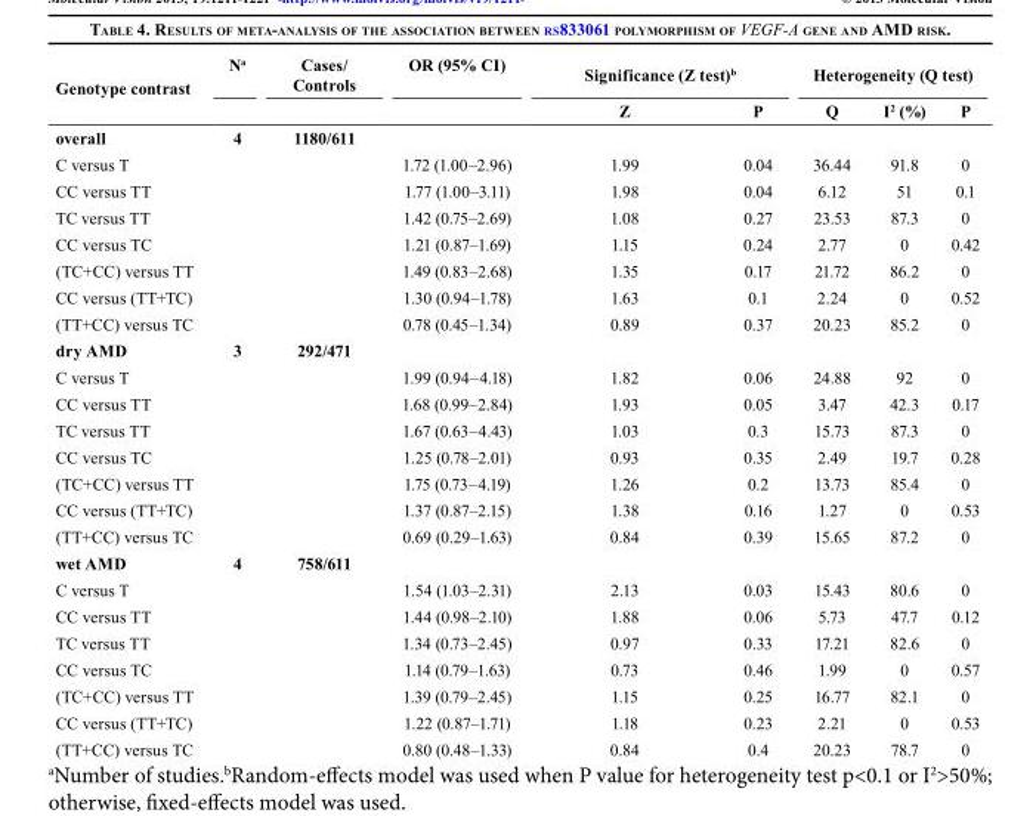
<table><thead><tr><td rowspan="2">Genotype contrast</td><td rowspan="2">N<sup>a</sup></td><td rowspan="2">Cases/ Controls</td><td rowspan="2">OR (95% CI)</td><td colspan="2">Significance (Z test)<sup>b</sup></td><td colspan="3">Heterogeneity (Q test)</td></tr><tr><td>Z</td><td>P</td><td>Q</td><td>I<sup>2</sup> (%)</td><td>P</td></tr></thead><tbody><tr><td>overall</td><td>4</td><td>1180/611</td><td></td><td></td><td></td><td></td><td></td><td></td></tr><tr><td>C versus T</td><td></td><td></td><td>1.72 (1.00–2.96)</td><td>1.99</td><td>0.04</td><td>36.44</td><td>91.8</td><td>0</td></tr><tr><td>CC versus TT</td><td></td><td></td><td>1.77 (1.00–3.11)</td><td>1.98</td><td>0.04</td><td>6.12</td><td>51</td><td>0.1</td></tr><tr><td>TC versus TT</td><td></td><td></td><td>1.42 (0.75–2.69)</td><td>1.08</td><td>0.27</td><td>23.53</td><td>87.3</td><td>0</td></tr><tr><td>CC versus TC</td><td></td><td></td><td>1.21 (0.87–1.69)</td><td>1.15</td><td>0.24</td><td>2.77</td><td>0</td><td>0.42</td></tr><tr><td>(TC+CC) versus TT</td><td></td><td></td><td>1.49 (0.83–2.68)</td><td>1.35</td><td>0.17</td><td>21.72</td><td>86.2</td><td>0</td></tr><tr><td>CC versus (TT+TC)</td><td></td><td></td><td>1.30 (0.94–1.78)</td><td>1.63</td><td>0.1</td><td>2.24</td><td>0</td><td>0.52</td></tr><tr><td>(TT+CC) versus TC</td><td></td><td></td><td>0.78 (0.45–1.34)</td><td>0.89</td><td>0.37</td><td>20.23</td><td>85.2</td><td>0</td></tr><tr><td>dry AMD</td><td>3</td><td>292/471</td><td></td><td></td><td></td><td></td><td></td><td></td></tr><tr><td>C versus T</td><td></td><td></td><td>1.99 (0.94–4.18)</td><td>1.82</td><td>0.06</td><td>24.88</td><td>92</td><td>0</td></tr><tr><td>CC versus TT</td><td></td><td></td><td>1.68 (0.99–2.84)</td><td>1.93</td><td>0.05</td><td>3.47</td><td>42.3</td><td>0.17</td></tr><tr><td>TC versus TT</td><td></td><td></td><td>1.67 (0.63–4.43)</td><td>1.03</td><td>0.3</td><td>15.73</td><td>87.3</td><td>0</td></tr><tr><td>CC versus TC</td><td></td><td></td><td>1.25 (0.78–2.01)</td><td>0.93</td><td>0.35</td><td>2.49</td><td>19.7</td><td>0.28</td></tr><tr><td>(TC+CC) versus TT</td><td></td><td></td><td>1.75 (0.73–4.19)</td><td>1.26</td><td>0.2</td><td>13.73</td><td>85.4</td><td>0</td></tr><tr><td>CC versus (TT+TC)</td><td></td><td></td><td>1.37 (0.87–2.15)</td><td>1.38</td><td>0.16</td><td>1.27</td><td>0</td><td>0.53</td></tr><tr><td>(TT+CC) versus TC</td><td></td><td></td><td>0.69 (0.29–1.63)</td><td>0.84</td><td>0.39</td><td>15.65</td><td>87.2</td><td>0</td></tr><tr><td>wet AMD</td><td>4</td><td>758/611</td><td></td><td></td><td></td><td></td><td></td><td></td></tr><tr><td>C versus T</td><td></td><td></td><td>1.54 (1.03–2.31)</td><td>2.13</td><td>0.03</td><td>15.43</td><td>80.6</td><td>0</td></tr><tr><td>CC versus TT</td><td></td><td></td><td>1.44 (0.98–2.10)</td><td>1.88</td><td>0.06</td><td>5.73</td><td>47.7</td><td>0.12</td></tr><tr><td>TC versus TT</td><td></td><td></td><td>1.34 (0.73–2.45)</td><td>0.97</td><td>0.33</td><td>17.21</td><td>82.6</td><td>0</td></tr><tr><td>CC versus TC</td><td></td><td></td><td>1.14 (0.79–1.63)</td><td>0.73</td><td>0.46</td><td>1.99</td><td>0</td><td>0.57</td></tr><tr><td>(TC+CC) versus TT</td><td></td><td></td><td>1.39 (0.79–2.45)</td><td>1.15</td><td>0.25</td><td>16.77</td><td>82.1</td><td>0</td></tr><tr><td>CC versus (TT+TC)</td><td></td><td></td><td>1.22 (0.87–1.71)</td><td>1.18</td><td>0.23</td><td>2.21</td><td>0</td><td>0.53</td></tr><tr><td>(TT+CC) versus TC</td><td></td><td></td><td>0.80 (0.48–1.33)</td><td>0.84</td><td>0.4</td><td>20.23</td><td>78.7</td><td>0</td></tr></tbody></table>